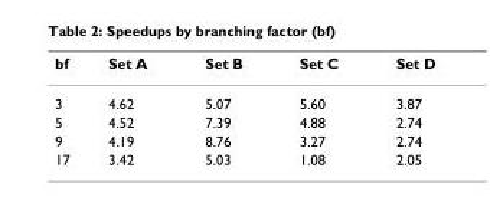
<table><thead><tr><td>bf</td><td>Set A</td><td>Set B</td><td>Set C</td><td>Set D</td></tr></thead><tbody><tr><td>3</td><td>4.62</td><td>5.07</td><td>5.60</td><td>3.87</td></tr><tr><td>5</td><td>4.52</td><td>7.39</td><td>4.88</td><td>2.74</td></tr><tr><td>9</td><td>4.19</td><td>8.76</td><td>3.27</td><td>2.74</td></tr><tr><td>17</td><td>3.42</td><td>5.03</td><td>1.08</td><td>2.05</td></tr></tbody></table>